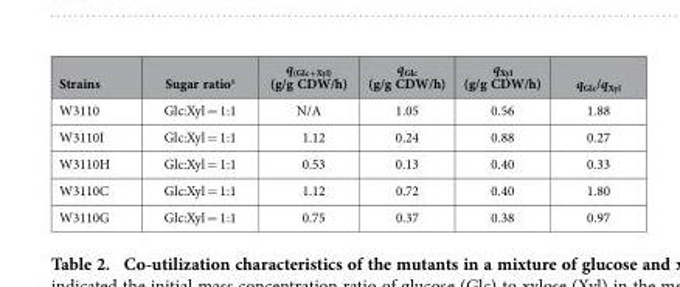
<table><thead><tr><td>Strains</td><td>Sugar ratio<sup>a</sup></td><td>q<sub>(Glc+Xyl)</sub> (g/g CDW/h)</td><td>q<sub>Glc</sub> (g/g CDW/h)</td><td>q<sub>Xyl</sub> (g/g CDW/h)</td><td>q<sub>Glc</sub>/q<sub>Xyl</sub></td></tr></thead><tbody><tr><td>W3110</td><td>Glc:Xyl = 1:1</td><td>N/A</td><td>1.05</td><td>0.56</td><td>1.88</td></tr><tr><td>W3110I</td><td>Glc:Xyl = 1:1</td><td>1.12</td><td>0.24</td><td>0.88</td><td>0.27</td></tr><tr><td>W3110H</td><td>Glc:Xyl = 1:1</td><td>0.53</td><td>0.13</td><td>0.40</td><td>0.33</td></tr><tr><td>W3110C</td><td>Glc:Xyl = 1:1</td><td>1.12</td><td>0.72</td><td>0.40</td><td>1.80</td></tr><tr><td>W3110G</td><td>Glc:Xyl = 1:1</td><td>0.75</td><td>0.37</td><td>0.38</td><td>0.97</td></tr></tbody></table>